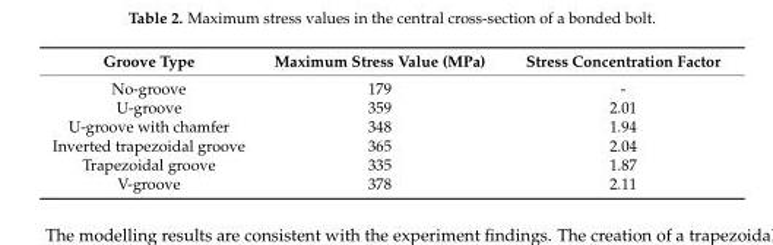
<table><thead><tr><td>Groove Type</td><td>Maximum Stress Value (MPa)</td><td>Stress Concentration Factor</td></tr></thead><tbody><tr><td>No-groove</td><td>179</td><td>-</td></tr><tr><td>U-groove</td><td>359</td><td>2.01</td></tr><tr><td>U-groove with chamfer</td><td>348</td><td>1.94</td></tr><tr><td>Inverted trapezoidal groove</td><td>365</td><td>2.04</td></tr><tr><td>Trapezoidal groove</td><td>335</td><td>1.87</td></tr><tr><td>V-groove</td><td>378</td><td>2.11</td></tr></tbody></table>